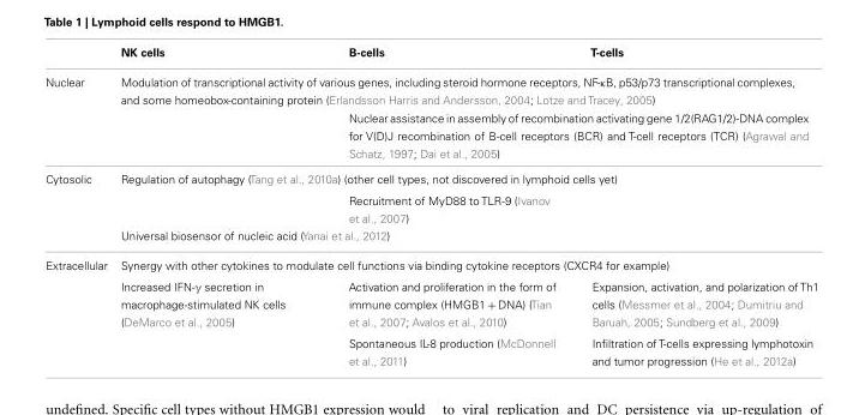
<table><thead><tr><td></td><td>NK cells</td><td>B-cells</td><td>T-cells</td></tr></thead><tbody><tr><td rowspan="2">Nuclear</td><td colspan="3">Modulation of transcriptional activity of various genes, including steroid hormone receptors, NF-κB, p53/p73 transcriptional complexes, and some homeobox-containing protein (Erlandsson Harris and Andersson, 2004; Lotze and Tracey, 2005)</td></tr><tr><td></td><td colspan="2">Nuclear assistance in assembly of recombination activating gene 1/2(RAG1/2)-DNA complex for V(D)J recombination of B-cell receptors (BCR) and T-cell receptors (TCR) (Agrawal and Schatz, 1997; Dai et al., 2005)</td></tr><tr><td rowspan="3">Cytosolic</td><td colspan="3">Regulation of autophagy (Tang et al., 2010a) (other cell types, not discovered in lymphoid cells yet)</td></tr><tr><td></td><td>Recruitment of MyD88 to TLR-9 (Ivanov et al., 2007)</td><td></td></tr><tr><td colspan="3">Universal biosensor of nucleic acid (Yanai et al., 2012)</td></tr><tr><td rowspan="3">Extracellular</td><td colspan="3">Synergy with other cytokines to modulate cell functions via binding cytokine receptors (CXCR4 for example)</td></tr><tr><td>Increased IFN-γ secretion in macrophage-stimulated NK cells (DeMarco et al., 2005)</td><td>Activation and proliferation in the form of immune complex (HMGB1 + DNA) (Tian et al., 2007; Avalos et al., 2010)</td><td>Expansion, activation, and polarization of Th1 cells (Messmer et al., 2004; Dumitriu and Baruah, 2005; Sundberg et al., 2009)</td></tr><tr><td></td><td>Spontaneous IL-8 production (McDonnell et al., 2011)</td><td>Infiltration of T-cells expressing lymphotoxin and tumor progression (He et al., 2012a)</td></tr></tbody></table>